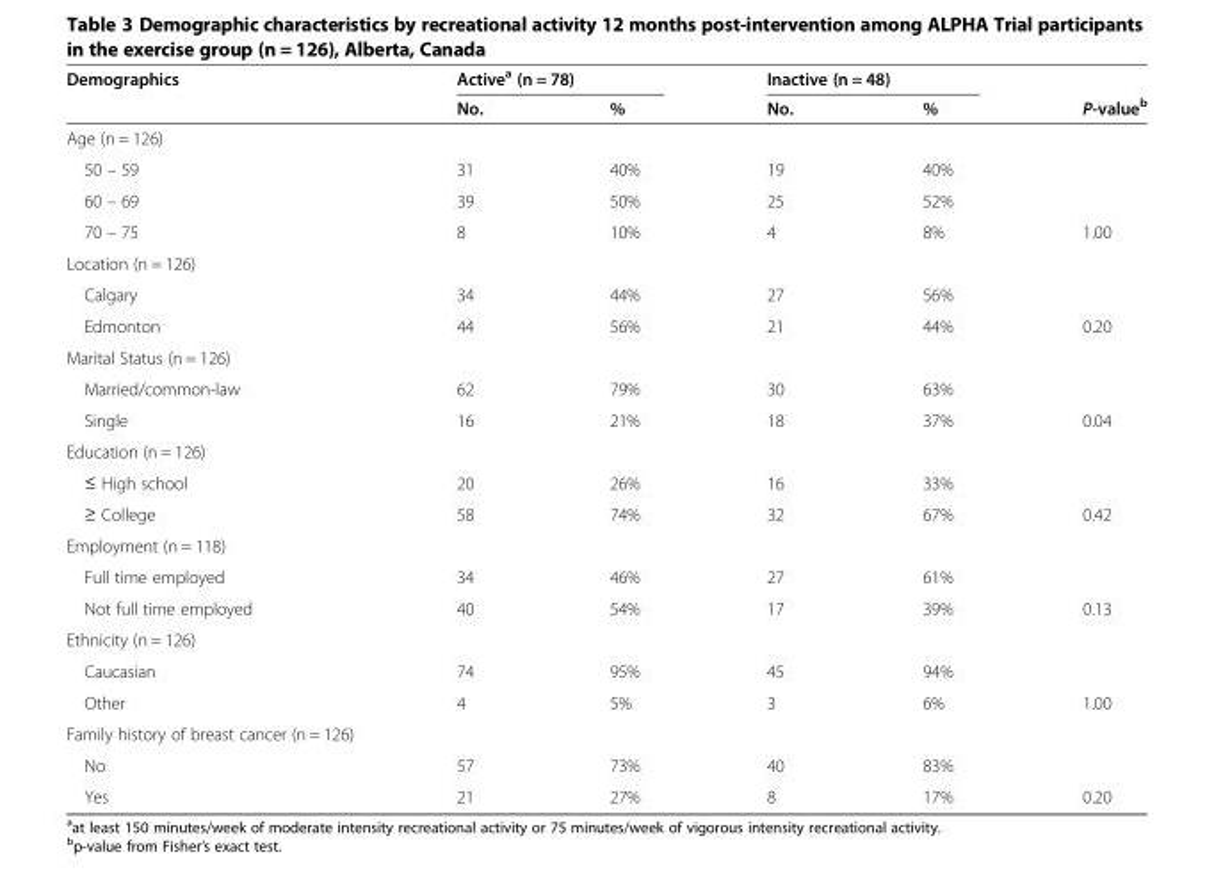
<table><thead><tr><td rowspan="2">Demographics</td><td colspan="2">Active<sup>a</sup> (n = 78)</td><td colspan="2">Inactive (n = 48)</td><td rowspan="2">P-value<sup>b</sup></td></tr><tr><td>No.</td><td>%</td><td>No.</td><td>%</td></tr></thead><tbody><tr><td colspan="6">Age (n = 126)</td></tr><tr><td>50 – 59</td><td>31</td><td>40%</td><td>19</td><td>40%</td><td></td></tr><tr><td>60 – 69</td><td>39</td><td>50%</td><td>25</td><td>52%</td><td></td></tr><tr><td>70 – 75</td><td>8</td><td>10%</td><td>4</td><td>8%</td><td>1.00</td></tr><tr><td colspan="6">Location (n = 126)</td></tr><tr><td>Calgary</td><td>34</td><td>44%</td><td>27</td><td>56%</td><td></td></tr><tr><td>Edmonton</td><td>44</td><td>56%</td><td>21</td><td>44%</td><td>0.20</td></tr><tr><td colspan="6">Marital Status (n = 126)</td></tr><tr><td>Married/common-law</td><td>62</td><td>79%</td><td>30</td><td>63%</td><td></td></tr><tr><td>Single</td><td>16</td><td>21%</td><td>18</td><td>37%</td><td>0.04</td></tr><tr><td colspan="6">Education (n = 126)</td></tr><tr><td>≤ High school</td><td>20</td><td>26%</td><td>16</td><td>33%</td><td></td></tr><tr><td>≥ College</td><td>58</td><td>74%</td><td>32</td><td>67%</td><td>0.42</td></tr><tr><td colspan="6">Employment (n = 118)</td></tr><tr><td>Full time employed</td><td>34</td><td>46%</td><td>27</td><td>61%</td><td></td></tr><tr><td>Not full time employed</td><td>40</td><td>54%</td><td>17</td><td>39%</td><td>0.13</td></tr><tr><td colspan="6">Ethnicity (n = 126)</td></tr><tr><td>Caucasian</td><td>74</td><td>95%</td><td>45</td><td>94%</td><td></td></tr><tr><td>Other</td><td>4</td><td>5%</td><td>3</td><td>6%</td><td>1.00</td></tr><tr><td colspan="6">Family history of breast cancer (n = 126)</td></tr><tr><td>No</td><td>57</td><td>73%</td><td>40</td><td>83%</td><td></td></tr><tr><td>Yes</td><td>21</td><td>27%</td><td>8</td><td>17%</td><td>0.20</td></tr></tbody></table>